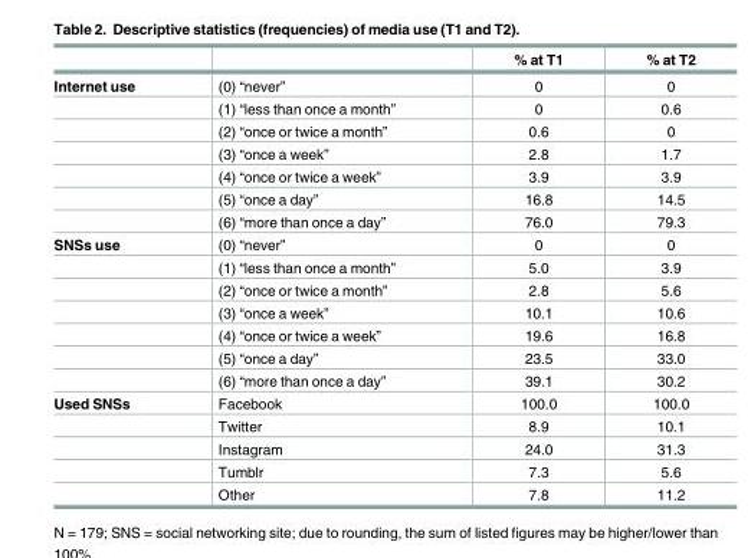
<table><thead><tr><td></td><td></td><td>% at T1</td><td>% at T2</td></tr></thead><tbody><tr><td rowspan="7">Internet use</td><td>(0) “never”</td><td>0</td><td>0</td></tr><tr><td>(1) “less than once a month”</td><td>0</td><td>0.6</td></tr><tr><td>(2) “once or twice a month”</td><td>0.6</td><td>0</td></tr><tr><td>(3) “once a week”</td><td>2.8</td><td>1.7</td></tr><tr><td>(4) “once or twice a week”</td><td>3.9</td><td>3.9</td></tr><tr><td>(5) “once a day”</td><td>16.8</td><td>14.5</td></tr><tr><td>(6) “more than once a day”</td><td>76.0</td><td>79.3</td></tr><tr><td rowspan="7">SNSs use</td><td>(0) “never”</td><td>0</td><td>0</td></tr><tr><td>(1) “less than once a month”</td><td>5.0</td><td>3.9</td></tr><tr><td>(2) “once or twice a month”</td><td>2.8</td><td>5.6</td></tr><tr><td>(3) “once a week”</td><td>10.1</td><td>10.6</td></tr><tr><td>(4) “once or twice a week”</td><td>19.6</td><td>16.8</td></tr><tr><td>(5) “once a day”</td><td>23.5</td><td>33.0</td></tr><tr><td>(6) “more than once a day”</td><td>39.1</td><td>30.2</td></tr><tr><td rowspan="5">Used SNSs</td><td>Facebook</td><td>100.0</td><td>100.0</td></tr><tr><td>Twitter</td><td>8.9</td><td>10.1</td></tr><tr><td>Instagram</td><td>24.0</td><td>31.3</td></tr><tr><td>Tumblr</td><td>7.3</td><td>5.6</td></tr><tr><td>Other</td><td>7.8</td><td>11.2</td></tr></tbody></table>